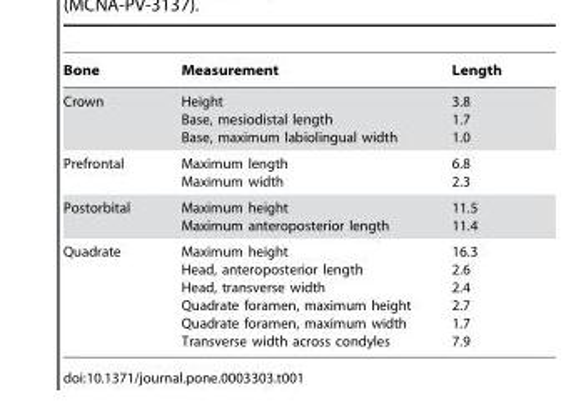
<table><thead><tr><td>Bone</td><td>Measurement</td><td>Length</td></tr></thead><tbody><tr><td>Crown</td><td>Height Base, mesiodistal length Base, maximum labiolingual width</td><td>3.8 1.7 1.0</td></tr><tr><td>Prefrontal</td><td>Maximum length Maximum width</td><td>6.8 2.3</td></tr><tr><td>Postorbital</td><td>Maximum height Maximum anteroposterior length</td><td>11.5 11.4</td></tr><tr><td>Quadrate</td><td>Maximum height Head, anteroposterior length Head, transverse width Quadrate foramen, maximum height Quadrate foramen, maximum width Transverse width across condyles</td><td>16.3 2.6 2.4 2.7 1.7 7.9</td></tr></tbody></table>